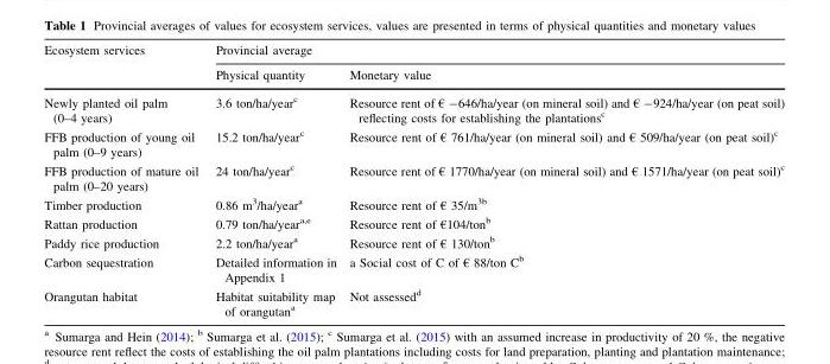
<table><thead><tr><td rowspan="2">Ecosystem services</td><td colspan="2">Provincial average</td></tr><tr><td>Physical quantity</td><td>Monetary value</td></tr></thead><tbody><tr><td>Newly planted oil palm (0–4 years)</td><td>3.6 ton/ha/year<sup>c</sup></td><td>Resource rent of € -646/ha/year (on mineral soil) and € -924/ha/year (on peat soil) reflecting costs for establishing the plantations<sup>c</sup></td></tr><tr><td>FFB production of young oil palm (0–9 years)</td><td>15.2 ton/ha/year<sup>c</sup></td><td>Resource rent of € 761/ha/year (on mineral soil) and € 509/ha/year (on peat soil)<sup>c</sup></td></tr><tr><td>FFB production of mature oil palm (0–20 years)</td><td>24 ton/ha/year<sup>c</sup></td><td>Resource rent of € 1770/ha/year (on mineral soil) and € 1571/ha/year (on peat soil)<sup>c</sup></td></tr><tr><td>Timber production</td><td>0.86 m<sup>3</sup>/ha/year<sup>a</sup></td><td>Resource rent of € 35/m<sup>3b</sup></td></tr><tr><td>Rattan production</td><td>0.79 ton/ha/year<sup>a,e</sup></td><td>Resource rent of €104/ton<sup>b</sup></td></tr><tr><td>Paddy rice production</td><td>2.2 ton/ha/year<sup>a</sup></td><td>Resource rent of € 130/ton<sup>b</sup></td></tr><tr><td>Carbon sequestration</td><td>Detailed information in Appendix 1</td><td>a Social cost of C of € 88/ton C<sup>b</sup></td></tr><tr><td>Orangutan habitat</td><td>Habitat suitability map of orangutan<sup>a</sup></td><td>Not assessed<sup>d</sup></td></tr></tbody></table>